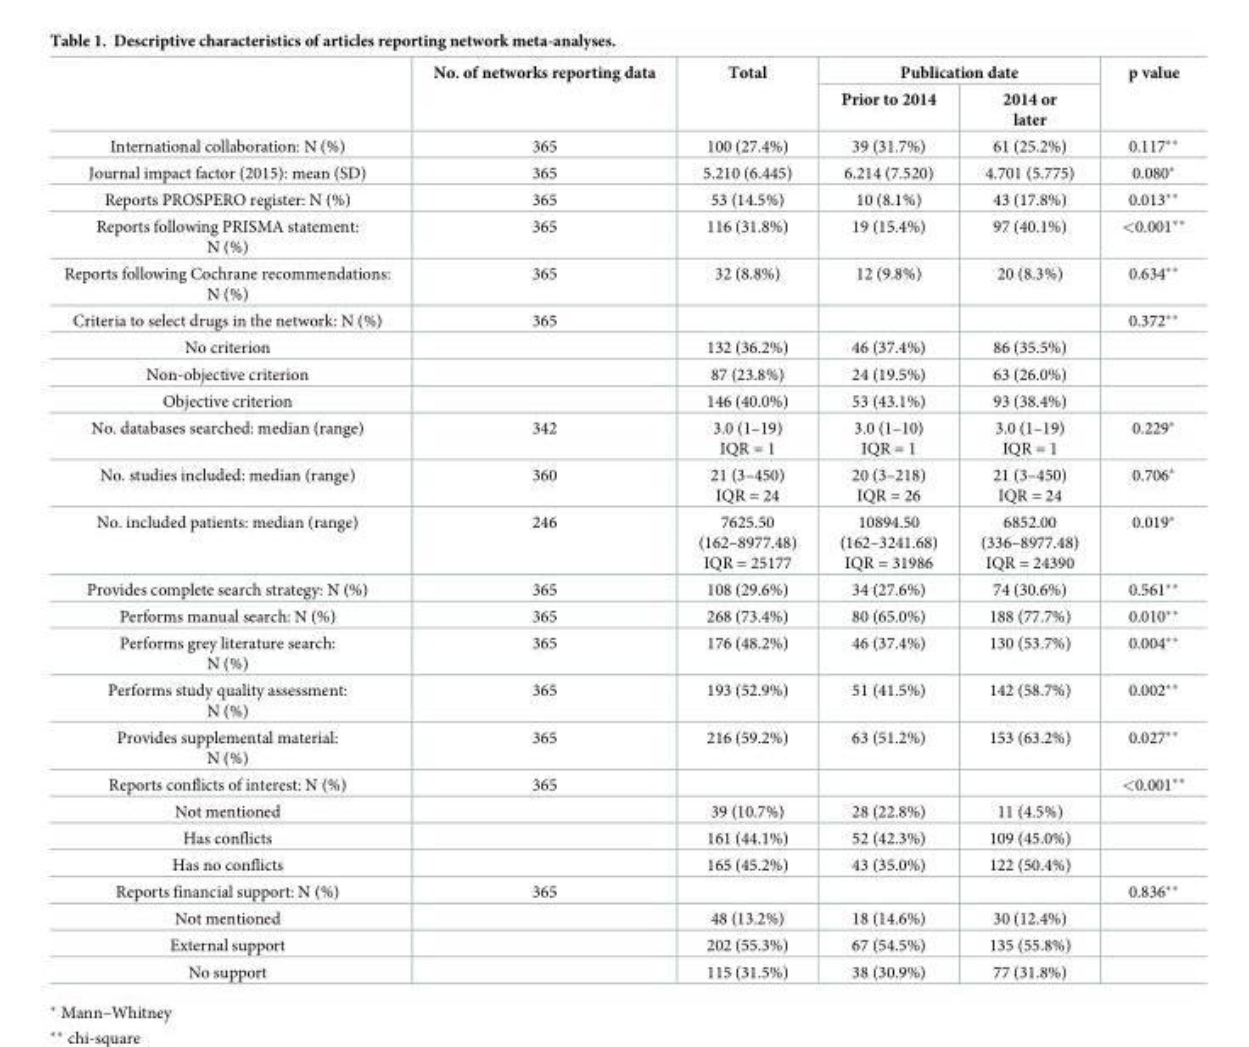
<table><thead><tr><td rowspan="2"></td><td rowspan="2">No. of networks reporting data</td><td rowspan="2">Total</td><td colspan="2">Publication date</td><td rowspan="2">p value</td></tr><tr><td>Prior to 2014</td><td>2014 or later</td></tr></thead><tbody><tr><td>International collaboration: N (%)</td><td>365</td><td>100 (27.4%)</td><td>39 (31.7%)</td><td>61 (25.2%)</td><td>0.117**</td></tr><tr><td>Journal impact factor (2015): mean (SD)</td><td>365</td><td>5.210 (6.445)</td><td>6.214 (7.520)</td><td>4.701 (5.775)</td><td>0.080*</td></tr><tr><td>Reports PROSPERO register: N (%)</td><td>365</td><td>53 (14.5%)</td><td>10 (8.1%)</td><td>43 (17.8%)</td><td>0.013**</td></tr><tr><td>Reports following PRISMA statement: N (%)</td><td>365</td><td>116 (31.8%)</td><td>19 (15.4%)</td><td>97 (40.1%)</td><td>&lt;0.001**</td></tr><tr><td>Reports following Cochrane recommendations: N (%)</td><td>365</td><td>32 (8.8%)</td><td>12 (9.8%)</td><td>20 (8.3%)</td><td>0.634**</td></tr><tr><td>Criteria to select drugs in the network: N (%)</td><td>365</td><td></td><td></td><td></td><td>0.372**</td></tr><tr><td>No criterion</td><td></td><td>132 (36.2%)</td><td>46 (37.4%)</td><td>86 (35.5%)</td><td></td></tr><tr><td>Non-objective criterion</td><td></td><td>87 (23.8%)</td><td>24 (19.5%)</td><td>63 (26.0%)</td><td></td></tr><tr><td>Objective criterion</td><td></td><td>146 (40.0%)</td><td>53 (43.1%)</td><td>93 (38.4%)</td><td></td></tr><tr><td>No. databases searched: median (range)</td><td>342</td><td>3.0 (1–19) IQR = 1</td><td>3.0 (1–10) IQR = 1</td><td>3.0 (1–19) IQR = 1</td><td>0.229*</td></tr><tr><td>No. studies included: median (range)</td><td>360</td><td>21 (3–450) IQR = 24</td><td>20 (3–218) IQR = 26</td><td>21 (3–450) IQR = 24</td><td>0.706*</td></tr><tr><td>No. included patients: median (range)</td><td>246</td><td>7625.50 (162–8977.48) IQR = 25177</td><td>10894.50 (162–3241.68) IQR = 31986</td><td>6852.00 (336–8977.48) IQR = 24390</td><td>0.019*</td></tr><tr><td>Provides complete search strategy: N (%)</td><td>365</td><td>108 (29.6%)</td><td>34 (27.6%)</td><td>74 (30.6%)</td><td>0.561**</td></tr><tr><td>Performs manual search: N (%)</td><td>365</td><td>268 (73.4%)</td><td>80 (65.0%)</td><td>188 (77.7%)</td><td>0.010**</td></tr><tr><td>Performs grey literature search: N (%)</td><td>365</td><td>176 (48.2%)</td><td>46 (37.4%)</td><td>130 (53.7%)</td><td>0.004**</td></tr><tr><td>Performs study quality assessment: N (%)</td><td>365</td><td>193 (52.9%)</td><td>51 (41.5%)</td><td>142 (58.7%)</td><td>0.002**</td></tr><tr><td>Provides supplemental material: N (%)</td><td>365</td><td>216 (59.2%)</td><td>63 (51.2%)</td><td>153 (63.2%)</td><td>0.027**</td></tr><tr><td>Reports conflicts of interest: N (%)</td><td>365</td><td></td><td></td><td></td><td>&lt;0.001**</td></tr><tr><td>Not mentioned</td><td></td><td>39 (10.7%)</td><td>28 (22.8%)</td><td>11 (4.5%)</td><td></td></tr><tr><td>Has conflicts</td><td></td><td>161 (44.1%)</td><td>52 (42.3%)</td><td>109 (45.0%)</td><td></td></tr><tr><td>Has no conflicts</td><td></td><td>165 (45.2%)</td><td>43 (35.0%)</td><td>122 (50.4%)</td><td></td></tr><tr><td>Reports financial support: N (%)</td><td>365</td><td></td><td></td><td></td><td>0.836**</td></tr><tr><td>Not mentioned</td><td></td><td>48 (13.2%)</td><td>18 (14.6%)</td><td>30 (12.4%)</td><td></td></tr><tr><td>External support</td><td></td><td>202 (55.3%)</td><td>67 (54.5%)</td><td>135 (55.8%)</td><td></td></tr><tr><td>No support</td><td></td><td>115 (31.5%)</td><td>38 (30.9%)</td><td>77 (31.8%)</td><td></td></tr></tbody></table>